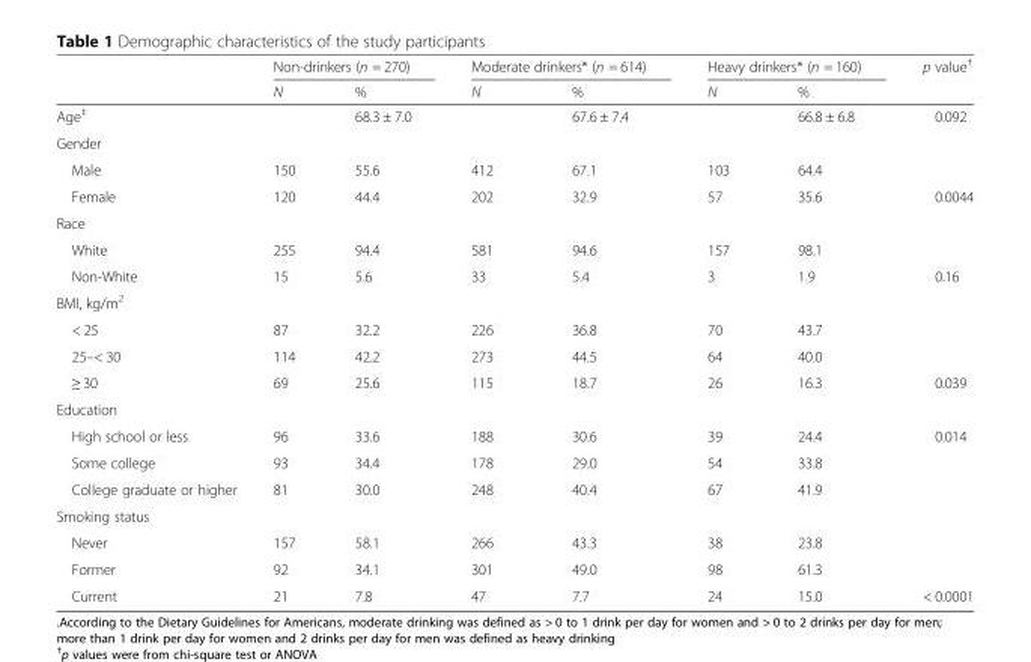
<table><thead><tr><td rowspan="2"></td><td colspan="2">Non-drinkers (n = 270)</td><td colspan="2">Moderate drinkers* (n = 614)</td><td colspan="2">Heavy drinkers* (n = 160)</td><td rowspan="2">p value<sup>†</sup></td></tr><tr><td>N</td><td>%</td><td>N</td><td>%</td><td>N</td><td>%</td></tr></thead><tbody><tr><td>Age<sup>‡</sup></td><td></td><td>68.3 ± 7.0</td><td></td><td>67.6 ± 7.4</td><td></td><td>66.8 ± 6.8</td><td>0.092</td></tr><tr><td colspan="8">Gender</td></tr><tr><td>Male</td><td>150</td><td>55.6</td><td>412</td><td>67.1</td><td>103</td><td>64.4</td><td></td></tr><tr><td>Female</td><td>120</td><td>44.4</td><td>202</td><td>32.9</td><td>57</td><td>35.6</td><td>0.0044</td></tr><tr><td colspan="8">Race</td></tr><tr><td>White</td><td>255</td><td>94.4</td><td>581</td><td>94.6</td><td>157</td><td>98.1</td><td></td></tr><tr><td>Non-White</td><td>15</td><td>5.6</td><td>33</td><td>5.4</td><td>3</td><td>1.9</td><td>0.16</td></tr><tr><td colspan="8">BMI, kg/m<sup>2</sup></td></tr><tr><td>&lt; 25</td><td>87</td><td>32.2</td><td>226</td><td>36.8</td><td>70</td><td>43.7</td><td></td></tr><tr><td>25–&lt; 30</td><td>114</td><td>42.2</td><td>273</td><td>44.5</td><td>64</td><td>40.0</td><td></td></tr><tr><td>≥ 30</td><td>69</td><td>25.6</td><td>115</td><td>18.7</td><td>26</td><td>16.3</td><td>0.039</td></tr><tr><td colspan="8">Education</td></tr><tr><td>High school or less</td><td>96</td><td>33.6</td><td>188</td><td>30.6</td><td>39</td><td>24.4</td><td>0.014</td></tr><tr><td>Some college</td><td>93</td><td>34.4</td><td>178</td><td>29.0</td><td>54</td><td>33.8</td><td></td></tr><tr><td>College graduate or higher</td><td>81</td><td>30.0</td><td>248</td><td>40.4</td><td>67</td><td>41.9</td><td></td></tr><tr><td colspan="8">Smoking status</td></tr><tr><td>Never</td><td>157</td><td>58.1</td><td>266</td><td>43.3</td><td>38</td><td>23.8</td><td></td></tr><tr><td>Former</td><td>92</td><td>34.1</td><td>301</td><td>49.0</td><td>98</td><td>61.3</td><td></td></tr><tr><td>Current</td><td>21</td><td>7.8</td><td>47</td><td>7.7</td><td>24</td><td>15.0</td><td>&lt; 0.0001</td></tr></tbody></table>